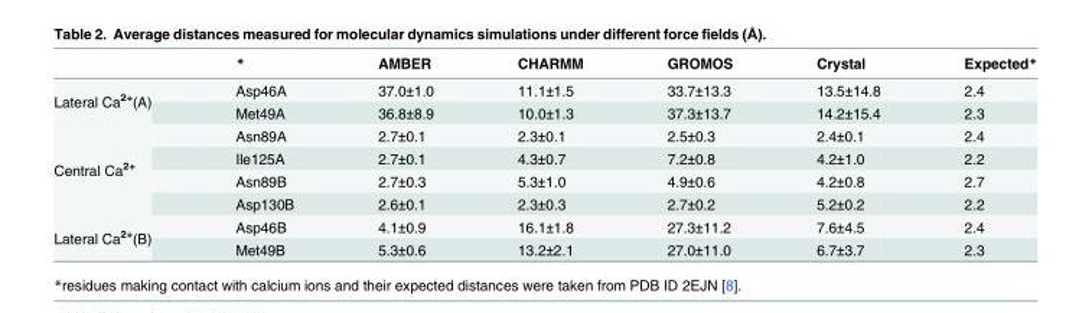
<table><thead><tr><td></td><td>*</td><td>AMBER</td><td>CHARMM</td><td>GROMOS</td><td>Crystal</td><td>Expected*</td></tr></thead><tbody><tr><td rowspan="2">Lateral Ca<sup>2+</sup>(A)</td><td>Asp46A</td><td>37.0±1.0</td><td>11.1±1.5</td><td>33.7±13.3</td><td>13.5±14.8</td><td>2.4</td></tr><tr><td>Met49A</td><td>36.8±8.9</td><td>10.0±1.3</td><td>37.3±13.7</td><td>14.2±15.4</td><td>2.3</td></tr><tr><td rowspan="4">Central Ca<sup>2+</sup></td><td>Asn89A</td><td>2.7±0.1</td><td>2.3±0.1</td><td>2.5±0.3</td><td>2.4±0.1</td><td>2.4</td></tr><tr><td>Ile125A</td><td>2.7±0.1</td><td>4.3±0.7</td><td>7.2±0.8</td><td>4.2±1.0</td><td>2.2</td></tr><tr><td>Asn89B</td><td>2.7±0.3</td><td>5.3±1.0</td><td>4.9±0.6</td><td>4.2±0.8</td><td>2.7</td></tr><tr><td>Asp130B</td><td>2.6±0.1</td><td>2.3±0.3</td><td>2.7±0.2</td><td>5.2±0.2</td><td>2.2</td></tr><tr><td rowspan="2">Lateral Ca<sup>2+</sup>(B)</td><td>Asp46B</td><td>4.1±0.9</td><td>16.1±1.8</td><td>27.3±11.2</td><td>7.6±4.5</td><td>2.4</td></tr><tr><td>Met49B</td><td>5.3±0.6</td><td>13.2±2.1</td><td>27.0±11.0</td><td>6.7±3.7</td><td>2.3</td></tr></tbody></table>